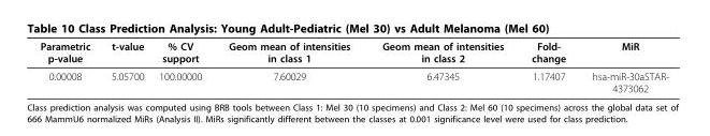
<table><thead><tr><td>Parametric p-value</td><td>t-value</td><td>% CV support</td><td>Geom mean of intensities in class 1</td><td>Geom mean of intensities in class 2</td><td>Fold- change</td><td>MiR</td></tr></thead><tbody><tr><td>0.00008</td><td>5.05700</td><td>100.00000</td><td>7.60029</td><td>6.47345</td><td>1.17407</td><td>hsa-miR-30aSTAR- 4373062</td></tr></tbody></table>